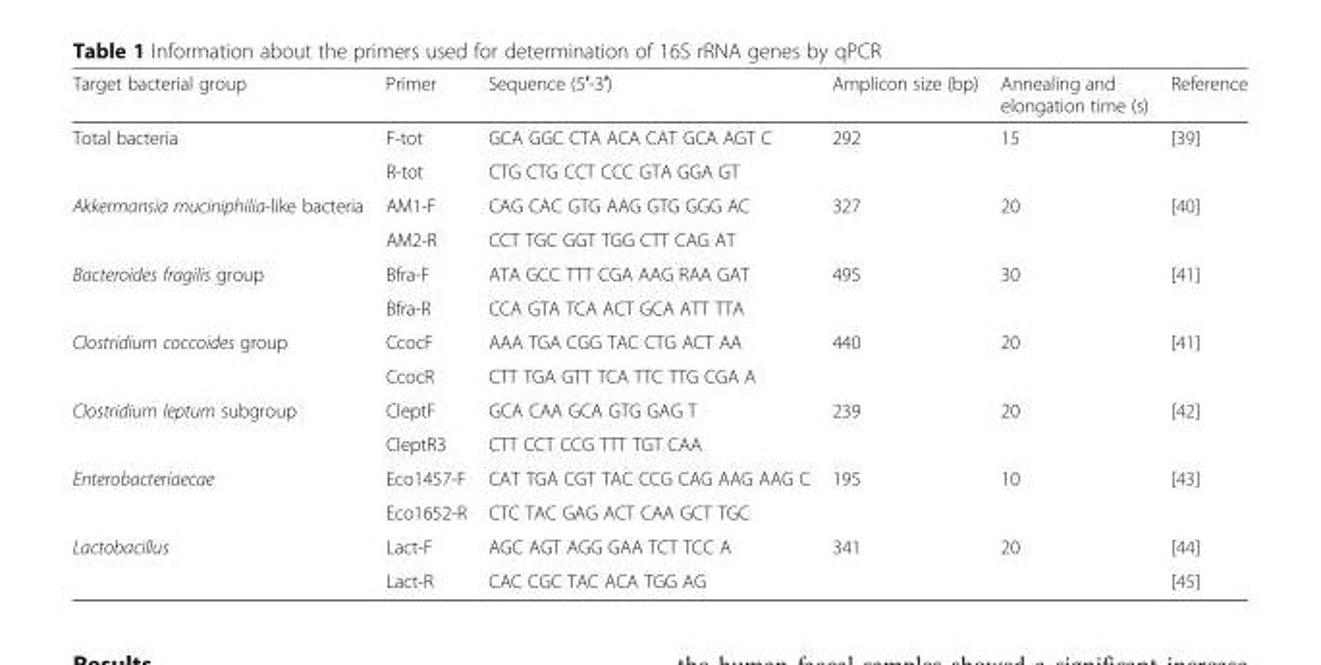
<table><thead><tr><td>Target bacterial group</td><td>Primer</td><td>Sequence (5′-3′)</td><td>Amplicon size (bp)</td><td>Annealing and elongation time (s)</td><td>Reference</td></tr></thead><tbody><tr><td rowspan="2">Total bacteria</td><td>F-tot</td><td>GCA GGC CTA ACA CAT GCA AGT C</td><td rowspan="2">292</td><td rowspan="2">15</td><td rowspan="2">[39]</td></tr><tr><td>R-tot</td><td>CTG CTG CCT CCC GTA GGA GT</td></tr><tr><td rowspan="2">Akkermansia muciniphilia-like bacteria</td><td>AM1-F</td><td>CAG CAC GTG AAG GTG GGG AC</td><td rowspan="2">327</td><td rowspan="2">20</td><td rowspan="2">[40]</td></tr><tr><td>AM2-R</td><td>CCT TGC GGT TGG CTT CAG AT</td></tr><tr><td rowspan="2">Bacteroides fragilis group</td><td>Bfra-F</td><td>ATA GCC TTT CGA AAG RAA GAT</td><td rowspan="2">495</td><td rowspan="2">30</td><td rowspan="2">[41]</td></tr><tr><td>Bfra-R</td><td>CCA GTA TCA ACT GCA ATT TTA</td></tr><tr><td rowspan="2">Clostridium coccoides group</td><td>CcocF</td><td>AAA TGA CGG TAC CTG ACT AA</td><td rowspan="2">440</td><td rowspan="2">20</td><td rowspan="2">[41]</td></tr><tr><td>CcocR</td><td>CTT TGA GTT TCA TTC TTG CGA A</td></tr><tr><td rowspan="2">Clostridium leptum subgroup</td><td>CleptF</td><td>GCA CAA GCA GTG GAG T</td><td rowspan="2">239</td><td rowspan="2">20</td><td rowspan="2">[42]</td></tr><tr><td>CleptR3</td><td>CTT CCT CCG TTT TGT CAA</td></tr><tr><td rowspan="2">Enterobacteriaecae</td><td>Eco1457-F</td><td>CAT TGA CGT TAC CCG CAG AAG AAG C</td><td rowspan="2">195</td><td rowspan="2">10</td><td rowspan="2">[43]</td></tr><tr><td>Eco1652-R</td><td>CTC TAC GAG ACT CAA GCT TGC</td></tr><tr><td rowspan="2">Lactobacillus</td><td>Lact-F</td><td>AGC AGT AGG GAA TCT TCC A</td><td rowspan="2">341</td><td rowspan="2">20</td><td>[44]</td></tr><tr><td>Lact-R</td><td>CAC CGC TAC ACA TGG AG</td><td>[45]</td></tr></tbody></table>